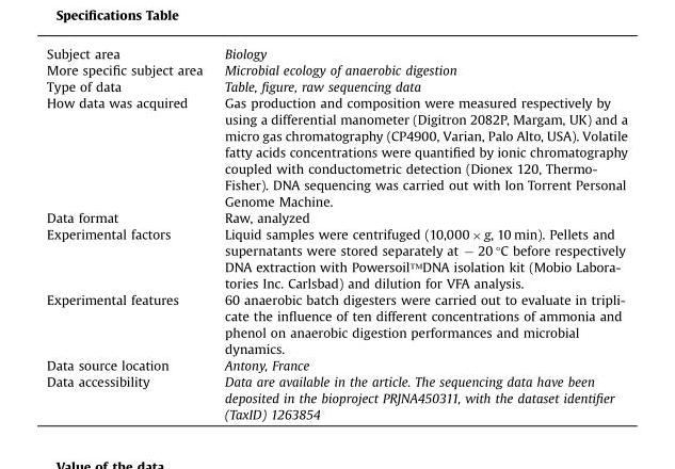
<table><tbody><tr><td>Subject area</td><td>Biology</td></tr><tr><td>More specific subject area</td><td>Microbial ecology of anaerobic digestion</td></tr><tr><td>Type of data</td><td>Table, figure, raw sequencing data</td></tr><tr><td>How data was acquired</td><td>Gas production and composition were measured respectively by using a differential manometer (Digitron 2082P, Margam, UK) and a micro gas chromatography (CP4900, Varian, Palo Alto, USA). Volatile fatty acids concentrations were quantified by ionic chromatography coupled with conductometric detection (Dionex 120, Thermo- Fisher). DNA sequencing was carried out with Ion Torrent Personal Genome Machine.</td></tr><tr><td>Data format</td><td>Raw, analyzed</td></tr><tr><td>Experimental factors</td><td>Liquid samples were centrifuged (10,000 � g, 10 min). Pellets and supernatants were stored separately at � 20 °C before respectively DNA extraction with Powersoil™DNA isolation kit (Mobio Labora- tories Inc. Carlsbad) and dilution for VFA analysis.</td></tr><tr><td>Experimental features</td><td>60 anaerobic batch digesters were carried out to evaluate in tripli- cate the influence of ten different concentrations of ammonia and phenol on anaerobic digestion performances and microbial dynamics.</td></tr><tr><td>Data source location</td><td>Antony, France</td></tr><tr><td>Data accessibility</td><td>Data are available in the article. The sequencing data have been deposited in the bioproject PRJNA450311, with the dataset identifier (TaxID) 1263854</td></tr></tbody></table>